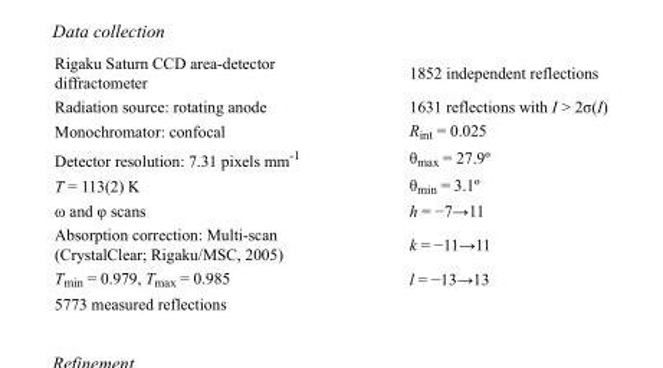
<table><tbody><tr><td>Rigaku Saturn CCD area-detector diffractometer</td><td>1852 independent reflections</td></tr><tr><td>Radiation source: rotating anode</td><td>1631 reflections with I &gt; 2σ(I)</td></tr><tr><td>Monochromator: confocal</td><td>R<sub>int</sub> = 0.025</td></tr><tr><td>Detector resolution: 7.31 pixels mm<sup>-1</sup></td><td>θ<sub>max</sub> = 27.9º</td></tr><tr><td>T = 113(2) K</td><td>θ<sub>min</sub> = 3.1º</td></tr><tr><td>ω and φ scans</td><td>h = −7→11</td></tr><tr><td>Absorption correction: Multi-scan (CrystalClear; Rigaku/MSC, 2005)</td><td>k = −11→11</td></tr><tr><td>T<sub>min</sub> = 0.979, T<sub>max</sub> = 0.985</td><td>l = −13→13</td></tr><tr><td>5773 measured reflections</td><td></td></tr></tbody></table>